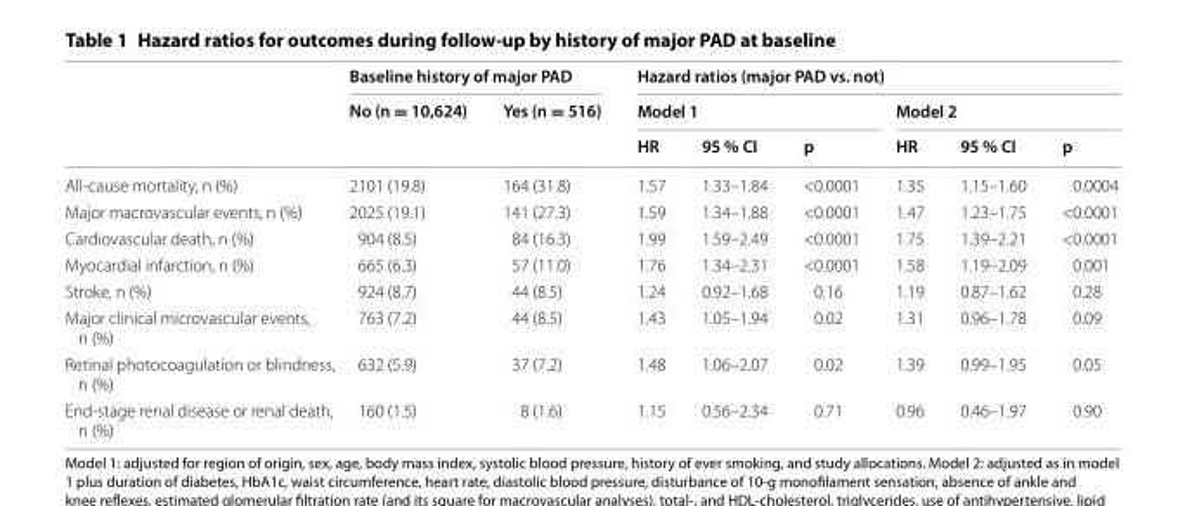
<table><thead><tr><td rowspan="3"></td><td colspan="2">Baseline history of major PAD</td><td colspan="6">Hazard ratios (major PAD vs. not)</td></tr><tr><td rowspan="2">No (n = 10,624)</td><td rowspan="2">Yes (n = 516)</td><td colspan="3">Model 1</td><td colspan="3">Model 2</td></tr><tr><td>HR</td><td>95 % CI</td><td>p</td><td>HR</td><td>95 % CI</td><td>p</td></tr></thead><tbody><tr><td>All-cause mortality, n (%)</td><td>2101 (19.8)</td><td>164 (31.8)</td><td>1.57</td><td>1.33–1.84</td><td>&lt;0.0001</td><td>1.35</td><td>1.15–1.60</td><td>0.0004</td></tr><tr><td>Major macrovascular events, n (%)</td><td>2025 (19.1)</td><td>141 (27.3)</td><td>1.59</td><td>1.34–1.88</td><td>&lt;0.0001</td><td>1.47</td><td>1.23–1.75</td><td>&lt;0.0001</td></tr><tr><td>Cardiovascular death, n (%)</td><td>904 (8.5)</td><td>84 (16.3)</td><td>1.99</td><td>1.59–2.49</td><td>&lt;0.0001</td><td>1.75</td><td>1.39–2.21</td><td>&lt;0.0001</td></tr><tr><td>Myocardial infarction, n (%)</td><td>665 (6.3)</td><td>57 (11.0)</td><td>1.76</td><td>1.34–2.31</td><td>&lt;0.0001</td><td>1.58</td><td>1.19–2.09</td><td>0.001</td></tr><tr><td>Stroke, n (%)</td><td>924 (8.7)</td><td>44 (8.5)</td><td>1.24</td><td>0.92–1.68</td><td>0.16</td><td>1.19</td><td>0.87–1.62</td><td>0.28</td></tr><tr><td>Major clinical microvascular events, n (%)</td><td>763 (7.2)</td><td>44 (8.5)</td><td>1.43</td><td>1.05–1.94</td><td>0.02</td><td>1.31</td><td>0.96–1.78</td><td>0.09</td></tr><tr><td>Retinal photocoagulation or blindness, n (%)</td><td>632 (5.9)</td><td>37 (7.2)</td><td>1.48</td><td>1.06–2.07</td><td>0.02</td><td>1.39</td><td>0.99–1.95</td><td>0.05</td></tr><tr><td>End-stage renal disease or renal death, n (%)</td><td>160 (1.5)</td><td>8 (1.6)</td><td>1.15</td><td>0.56–2.34</td><td>0.71</td><td>0.96</td><td>0.46–1.97</td><td>0.90</td></tr></tbody></table>